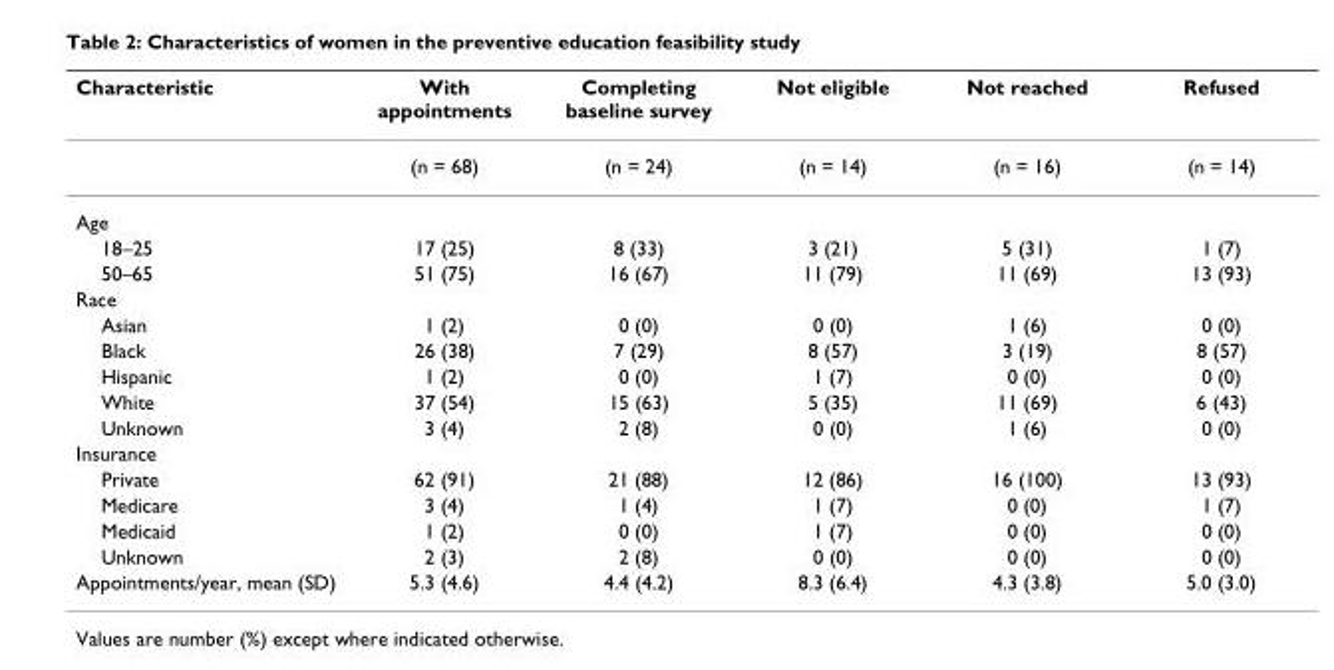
<table><thead><tr><td>Characteristic</td><td>With appointments</td><td>Completing baseline survey</td><td>Not eligible</td><td>Not reached</td><td>Refused</td></tr></thead><tbody><tr><td></td><td>(n = 68)</td><td>(n = 24)</td><td>(n = 14)</td><td>(n = 16)</td><td>(n = 14)</td></tr><tr><td colspan="6">Age</td></tr><tr><td>18–25</td><td>17 (25)</td><td>8 (33)</td><td>3 (21)</td><td>5 (31)</td><td>1 (7)</td></tr><tr><td>50–65</td><td>51 (75)</td><td>16 (67)</td><td>11 (79)</td><td>11 (69)</td><td>13 (93)</td></tr><tr><td colspan="6">Race</td></tr><tr><td>Asian</td><td>1 (2)</td><td>0 (0)</td><td>0 (0)</td><td>1 (6)</td><td>0 (0)</td></tr><tr><td>Black</td><td>26 (38)</td><td>7 (29)</td><td>8 (57)</td><td>3 (19)</td><td>8 (57)</td></tr><tr><td>Hispanic</td><td>1 (2)</td><td>0 (0)</td><td>1 (7)</td><td>0 (0)</td><td>0 (0)</td></tr><tr><td>White</td><td>37 (54)</td><td>15 (63)</td><td>5 (35)</td><td>11 (69)</td><td>6 (43)</td></tr><tr><td>Unknown</td><td>3 (4)</td><td>2 (8)</td><td>0 (0)</td><td>1 (6)</td><td>0 (0)</td></tr><tr><td colspan="6">Insurance</td></tr><tr><td>Private</td><td>62 (91)</td><td>21 (88)</td><td>12 (86)</td><td>16 (100)</td><td>13 (93)</td></tr><tr><td>Medicare</td><td>3 (4)</td><td>1 (4)</td><td>1 (7)</td><td>0 (0)</td><td>1 (7)</td></tr><tr><td>Medicaid</td><td>1 (2)</td><td>0 (0)</td><td>1 (7)</td><td>0 (0)</td><td>0 (0)</td></tr><tr><td>Unknown</td><td>2 (3)</td><td>2 (8)</td><td>0 (0)</td><td>0 (0)</td><td>0 (0)</td></tr><tr><td>Appointments/year, mean (SD)</td><td>5.3 (4.6)</td><td>4.4 (4.2)</td><td>8.3 (6.4)</td><td>4.3 (3.8)</td><td>5.0 (3.0)</td></tr></tbody></table>